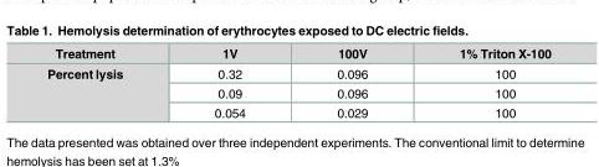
<table><thead><tr><td>Treatment</td><td>1V</td><td>100V</td><td>1% Triton X-100</td></tr></thead><tbody><tr><td rowspan="3">Percent lysis</td><td>0.32</td><td>0.096</td><td>100</td></tr><tr><td>0.09</td><td>0.096</td><td>100</td></tr><tr><td>0.054</td><td>0.029</td><td>100</td></tr></tbody></table>